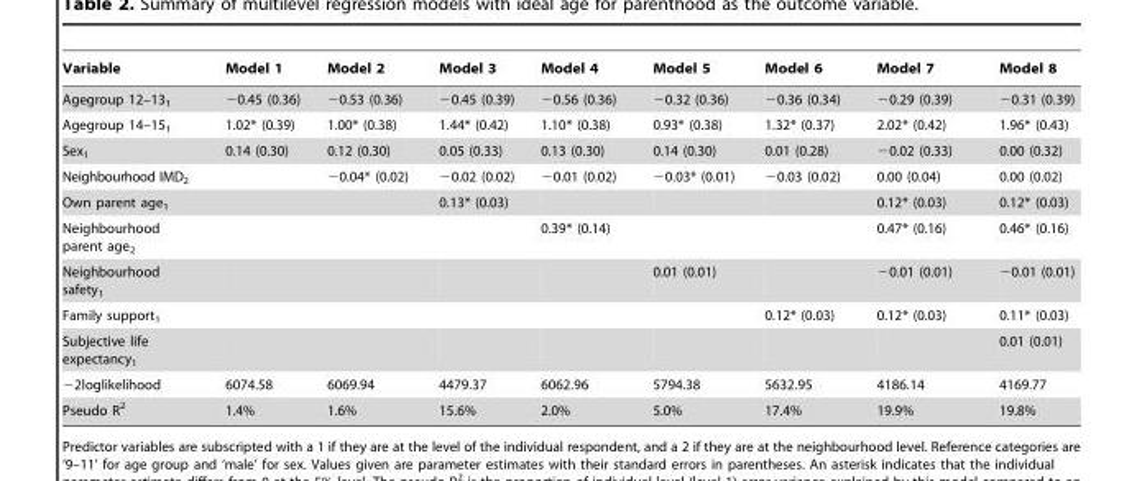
<table><thead><tr><td>Variable</td><td>Model 1</td><td>Model 2</td><td>Model 3</td><td>Model 4</td><td>Model 5</td><td>Model 6</td><td>Model 7</td><td>Model 8</td></tr></thead><tbody><tr><td>Agegroup 12–13<sub>1</sub></td><td>−0.45 (0.36)</td><td>−0.53 (0.36)</td><td>−0.45 (0.39)</td><td>−0.56 (0.36)</td><td>−0.32 (0.36)</td><td>−0.36 (0.34)</td><td>−0.29 (0.39)</td><td>−0.31 (0.39)</td></tr><tr><td>Agegroup 14–15<sub>1</sub></td><td>1.02* (0.39)</td><td>1.00* (0.38)</td><td>1.44* (0.42)</td><td>1.10* (0.38)</td><td>0.93* (0.38)</td><td>1.32* (0.37)</td><td>2.02* (0.42)</td><td>1.96* (0.43)</td></tr><tr><td>Sex<sub>1</sub></td><td>0.14 (0.30)</td><td>0.12 (0.30)</td><td>0.05 (0.33)</td><td>0.13 (0.30)</td><td>0.14 (0.30)</td><td>0.01 (0.28)</td><td>−0.02 (0.33)</td><td>0.00 (0.32)</td></tr><tr><td>Neighbourhood IMD<sub>2</sub></td><td></td><td>−0.04* (0.02)</td><td>−0.02 (0.02)</td><td>−0.01 (0.02)</td><td>−0.03* (0.01)</td><td>−0.03 (0.02)</td><td>0.00 (0.04)</td><td>0.00 (0.02)</td></tr><tr><td>Own parent age<sub>1</sub></td><td></td><td></td><td>0.13* (0.03)</td><td></td><td></td><td></td><td>0.12* (0.03)</td><td>0.12* (0.03)</td></tr><tr><td>Neighbourhood parent age<sub>2</sub></td><td></td><td></td><td></td><td>0.39* (0.14)</td><td></td><td></td><td>0.47* (0.16)</td><td>0.46* (0.16)</td></tr><tr><td>Neighbourhood safety<sub>1</sub></td><td></td><td></td><td></td><td></td><td>0.01 (0.01)</td><td></td><td>−0.01 (0.01)</td><td>−0.01 (0.01)</td></tr><tr><td>Family support<sub>1</sub></td><td></td><td></td><td></td><td></td><td></td><td>0.12* (0.03)</td><td>0.12* (0.03)</td><td>0.11* (0.03)</td></tr><tr><td>Subjective life expectancy<sub>1</sub></td><td></td><td></td><td></td><td></td><td></td><td></td><td></td><td>0.01 (0.01)</td></tr><tr><td>−2loglikelihood</td><td>6074.58</td><td>6069.94</td><td>4479.37</td><td>6062.96</td><td>5794.38</td><td>5632.95</td><td>4186.14</td><td>4169.77</td></tr><tr><td>Pseudo R<sup>2</sup></td><td>1.4%</td><td>1.6%</td><td>15.6%</td><td>2.0%</td><td>5.0%</td><td>17.4%</td><td>19.9%</td><td>19.8%</td></tr></tbody></table>